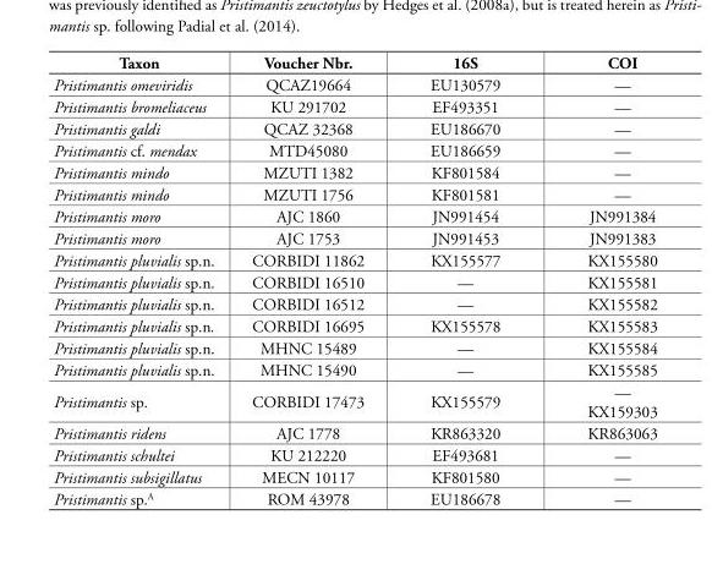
<table><thead><tr><td>Taxon</td><td>Voucher Nbr.</td><td>16S</td><td>COI</td></tr></thead><tbody><tr><td>Pristimantis omeviridis</td><td>QCAZ19664</td><td>EU130579</td><td>—</td></tr><tr><td>Pristimantis bromeliaceus</td><td>KU 291702</td><td>EF493351</td><td>—</td></tr><tr><td>Pristimantis galdi</td><td>QCAZ 32368</td><td>EU186670</td><td>—</td></tr><tr><td>Pristimantis cf. mendax</td><td>MTD45080</td><td>EU186659</td><td>—</td></tr><tr><td>Pristimantis mindo</td><td>MZUTI 1382</td><td>KF801584</td><td>—</td></tr><tr><td>Pristimantis mindo</td><td>MZUTI 1756</td><td>KF801581</td><td>—</td></tr><tr><td>Pristimantis moro</td><td>AJC 1860</td><td>JN991454</td><td>JN991384</td></tr><tr><td>Pristimantis moro</td><td>AJC 1753</td><td>JN991453</td><td>JN991383</td></tr><tr><td>Pristimantis pluvialis sp.n.</td><td>CORBIDI 11862</td><td>KX155577</td><td>KX155580</td></tr><tr><td>Pristimantis pluvialis sp.n.</td><td>CORBIDI 16510</td><td>—</td><td>KX155581</td></tr><tr><td>Pristimantis pluvialis sp.n.</td><td>CORBIDI 16512</td><td>—</td><td>KX155582</td></tr><tr><td>Pristimantis pluvialis sp.n.</td><td>CORBIDI 16695</td><td>KX155578</td><td>KX155583</td></tr><tr><td>Pristimantis pluvialis sp.n.</td><td>MHNC 15489</td><td>—</td><td>KX155584</td></tr><tr><td>Pristimantis pluvialis sp.n.</td><td>MHNC 15490</td><td>—</td><td>KX155585</td></tr><tr><td>Pristimantis sp.</td><td>CORBIDI 17473</td><td>KX155579</td><td>— KX159303</td></tr><tr><td>Pristimantis ridens</td><td>AJC 1778</td><td>KR863320</td><td>KR863063</td></tr><tr><td>Pristimantis schultei</td><td>KU 212220</td><td>EF493681</td><td>—</td></tr><tr><td>Pristimantis subsigillatus</td><td>MECN 10117</td><td>KF801580</td><td>—</td></tr><tr><td>Pristimantis sp.<sup>A</sup></td><td>ROM 43978</td><td>EU186678</td><td>—</td></tr></tbody></table>